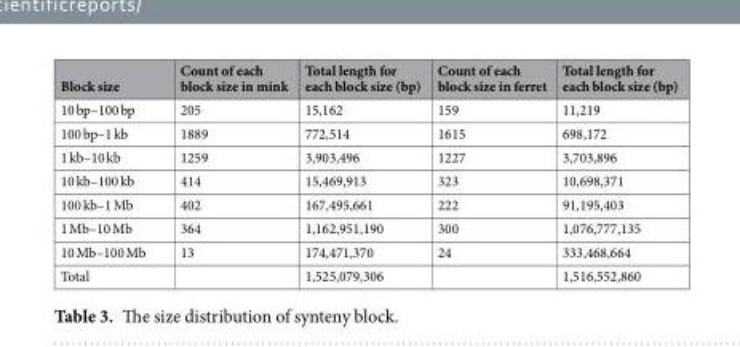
<table><thead><tr><td>Block size</td><td>Count of each block size in mink</td><td>Total length for each block size (bp)</td><td>Count of each block size in ferret</td><td>Total length for each block size (bp)</td></tr></thead><tbody><tr><td>10 bp–100 bp</td><td>205</td><td>15,162</td><td>159</td><td>11,219</td></tr><tr><td>100 bp–1 kb</td><td>1889</td><td>772,514</td><td>1615</td><td>698,172</td></tr><tr><td>1 kb–10 kb</td><td>1259</td><td>3,903,496</td><td>1227</td><td>3,703,896</td></tr><tr><td>10 kb–100 kb</td><td>414</td><td>15,469,913</td><td>323</td><td>10,698,371</td></tr><tr><td>100 kb–1 Mb</td><td>402</td><td>167,495,661</td><td>222</td><td>91,195,403</td></tr><tr><td>1 Mb–10 Mb</td><td>364</td><td>1,162,951,190</td><td>300</td><td>1,076,777,135</td></tr><tr><td>10 Mb–100 Mb</td><td>13</td><td>174,471,370</td><td>24</td><td>333,468,664</td></tr><tr><td>Total</td><td></td><td>1,525,079,306</td><td></td><td>1,516,552,860</td></tr></tbody></table>